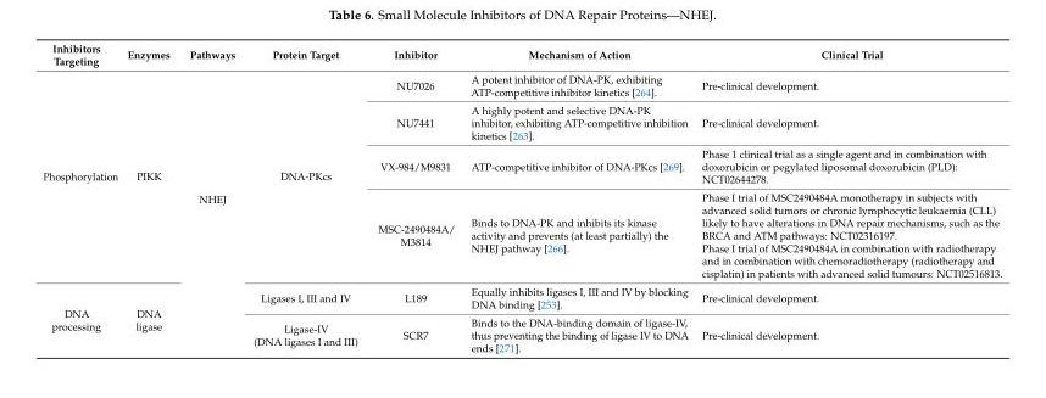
<table><thead><tr><td>Inhibitors Targeting</td><td>Enzymes</td><td>Pathways</td><td>Protein Target</td><td>Inhibitor</td><td>Mechanism of Action</td><td>Clinical Trial</td></tr></thead><tbody><tr><td rowspan="4">Phosphorylation</td><td rowspan="4">PIKK</td><td rowspan="6">NHEJ</td><td rowspan="4">DNA-PKcs</td><td>NU7026</td><td>A potent inhibitor of DNA-PK, exhibiting ATP-competitive inhibitor kinetics [264].</td><td>Pre-clinical development.</td></tr><tr><td>NU7441</td><td>A highly potent and selective DNA-PK inhibitor, exhibiting ATP-competitive inhibition kinetics [263].</td><td>Pre-clinical development.</td></tr><tr><td>VX-984/M9831</td><td>ATP-competitive inhibitor of DNA-PKcs [269].</td><td>Phase 1 clinical trial as a single agent and in combination with doxorubicin or pegylated liposomal doxorubicin (PLD): NCT02644278.</td></tr><tr><td>MSC-2490484A/ M3814</td><td>Binds to DNA-PK and inhibits its kinase activity and prevents (at least partially) the NHEJ pathway [266].</td><td>Phase I trial of MSC2490484A monotherapy in subjects with advanced solid tumors or chronic lymphocytic leukaemia (CLL) likely to have alterations in DNA repair mechanisms, such as the BRCA and ATM pathways: NCT02316197. Phase I trial of MSC2490484A in combination with radiotherapy and in combination with chemoradiotherapy (radiotherapy and cisplatin) in patients with advanced solid tumours: NCT02516813.</td></tr><tr><td rowspan="2">DNA processing</td><td rowspan="2">DNA ligase</td><td>Ligases I, III and IV</td><td>L189</td><td>Equally inhibits ligases I, III and IV by blocking DNA binding [253].</td><td>Pre-clinical development.</td></tr><tr><td>Ligase-IV (DNA ligases I and III)</td><td>SCR7</td><td>Binds to the DNA-binding domain of ligase-IV, thus preventing the binding of ligase IV to DNA ends [271].</td><td>Pre-clinical development.</td></tr></tbody></table>